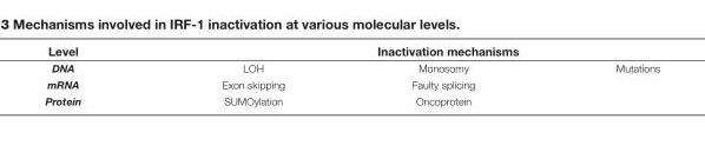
<table><thead><tr><td rowspan="2">Level DNA</td><td colspan="3">Inactivation mechanisms</td></tr><tr><td>LOH</td><td>Monosomy</td><td>Mutations</td></tr></thead><tbody><tr><td>mRNA</td><td>Exon skipping</td><td>Faulty splicing</td><td></td></tr><tr><td>Protein</td><td>SUMOylation</td><td>Oncoprotein</td><td></td></tr></tbody></table>